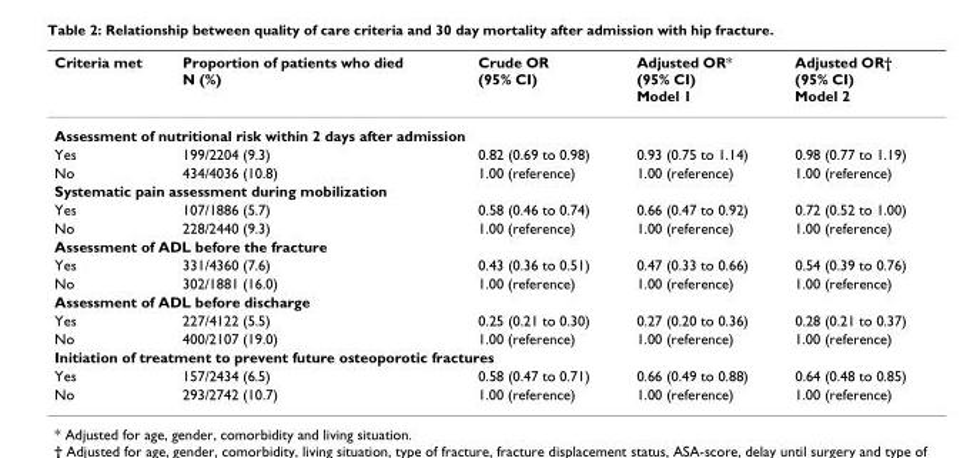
<table><thead><tr><td>Criteria met</td><td>Proportion of patients who died N (%)</td><td>Crude OR (95% CI)</td><td>Adjusted OR* (95% CI) Model 1</td><td>Adjusted OR† (95% CI) Model 2</td></tr></thead><tbody><tr><td colspan="5">Assessment of nutritional risk within 2 days after admission</td></tr><tr><td>Yes</td><td>199/2204 (9.3)</td><td>0.82 (0.69 to 0.98)</td><td>0.93 (0.75 to 1.14)</td><td>0.98 (0.77 to 1.19)</td></tr><tr><td>No</td><td>434/4036 (10.8)</td><td>1.00 (reference)</td><td>1.00 (reference)</td><td>1.00 (reference)</td></tr><tr><td colspan="5">Systematic pain assessment during mobilization</td></tr><tr><td>Yes</td><td>107/1886 (5.7)</td><td>0.58 (0.46 to 0.74)</td><td>0.66 (0.47 to 0.92)</td><td>0.72 (0.52 to 1.00)</td></tr><tr><td>No</td><td>228/2440 (9.3)</td><td>1.00 (reference)</td><td>1.00 (reference)</td><td>1.00 (reference)</td></tr><tr><td colspan="5">Assessment of ADL before the fracture</td></tr><tr><td>Yes</td><td>331/4360 (7.6)</td><td>0.43 (0.36 to 0.51)</td><td>0.47 (0.33 to 0.66)</td><td>0.54 (0.39 to 0.76)</td></tr><tr><td>No</td><td>302/1881 (16.0)</td><td>1.00 (reference)</td><td>1.00 (reference)</td><td>1.00 (reference)</td></tr><tr><td colspan="5">Assessment of ADL before discharge</td></tr><tr><td>Yes</td><td>227/4122 (5.5)</td><td>0.25 (0.21 to 0.30)</td><td>0.27 (0.20 to 0.36)</td><td>0.28 (0.21 to 0.37)</td></tr><tr><td>No</td><td>400/2107 (19.0)</td><td>1.00 (reference)</td><td>1.00 (reference)</td><td>1.00 (reference)</td></tr><tr><td colspan="5">Initiation of treatment to prevent future osteoporotic fractures</td></tr><tr><td>Yes</td><td>157/2434 (6.5)</td><td>0.58 (0.47 to 0.71)</td><td>0.66 (0.49 to 0.88)</td><td>0.64 (0.48 to 0.85)</td></tr><tr><td>No</td><td>293/2742 (10.7)</td><td>1.00 (reference)</td><td>1.00 (reference)</td><td>1.00 (reference)</td></tr></tbody></table>